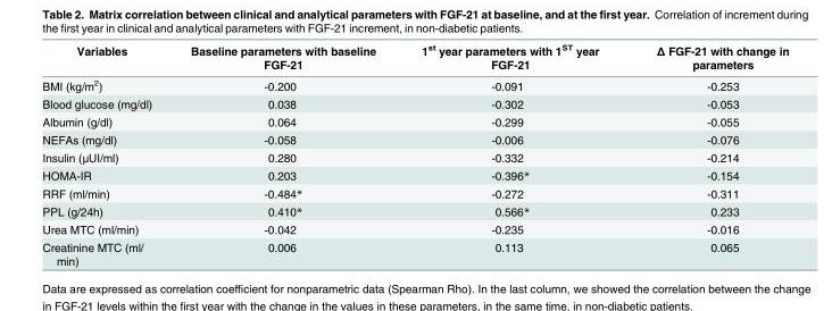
<table><thead><tr><td>Variables</td><td>Baseline parameters with baseline FGF-21</td><td>1<sup>st</sup> year parameters with 1<sup>ST</sup> year FGF-21</td><td>Δ FGF-21 with change in parameters</td></tr></thead><tbody><tr><td>BMI (kg/m<sup>2</sup>)</td><td>-0.200</td><td>-0.091</td><td>-0.253</td></tr><tr><td>Blood glucose (mg/dl)</td><td>0.038</td><td>-0.302</td><td>-0.053</td></tr><tr><td>Albumin (g/dl)</td><td>0.064</td><td>-0.299</td><td>-0.055</td></tr><tr><td>NEFAs (mg/dl)</td><td>-0.058</td><td>-0.006</td><td>-0.076</td></tr><tr><td>Insulin (μUI/ml)</td><td>0.280</td><td>-0.332</td><td>-0.214</td></tr><tr><td>HOMA-IR</td><td>0.203</td><td>-0.396*</td><td>-0.154</td></tr><tr><td>RRF (ml/min)</td><td>-0.484*</td><td>-0.272</td><td>-0.311</td></tr><tr><td>PPL (g/24h)</td><td>0.410*</td><td>0.566*</td><td>0.233</td></tr><tr><td>Urea MTC (ml/min)</td><td>-0.042</td><td>-0.235</td><td>-0.016</td></tr><tr><td>Creatinine MTC (ml/ min)</td><td>0.006</td><td>0.113</td><td>0.065</td></tr></tbody></table>